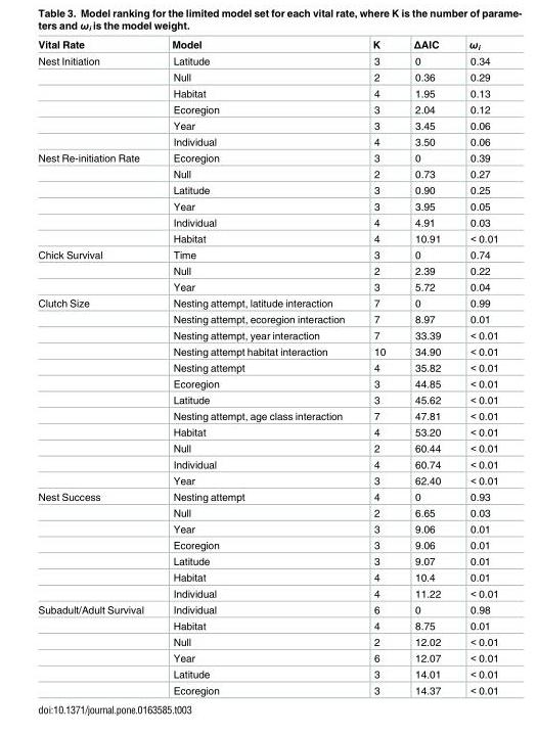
<table><thead><tr><td>Vital Rate</td><td>Model</td><td>K</td><td>ΔAIC</td><td>ω<sub>i</sub></td></tr></thead><tbody><tr><td rowspan="6">Nest Initiation</td><td>Latitude</td><td>3</td><td>0</td><td>0.34</td></tr><tr><td>Null</td><td>2</td><td>0.36</td><td>0.29</td></tr><tr><td>Habitat</td><td>4</td><td>1.95</td><td>0.13</td></tr><tr><td>Ecoregion</td><td>3</td><td>2.04</td><td>0.12</td></tr><tr><td>Year</td><td>3</td><td>3.45</td><td>0.06</td></tr><tr><td>Individual</td><td>4</td><td>3.50</td><td>0.06</td></tr><tr><td rowspan="6">Nest Re-initiation Rate</td><td>Ecoregion</td><td>3</td><td>0</td><td>0.39</td></tr><tr><td>Null</td><td>2</td><td>0.73</td><td>0.27</td></tr><tr><td>Latitude</td><td>3</td><td>0.90</td><td>0.25</td></tr><tr><td>Year</td><td>3</td><td>3.95</td><td>0.05</td></tr><tr><td>Individual</td><td>4</td><td>4.91</td><td>0.03</td></tr><tr><td>Habitat</td><td>4</td><td>10.91</td><td>&lt; 0.01</td></tr><tr><td rowspan="3">Chick Survival</td><td>Time</td><td>3</td><td>0</td><td>0.74</td></tr><tr><td>Null</td><td>2</td><td>2.39</td><td>0.22</td></tr><tr><td>Year</td><td>3</td><td>5.72</td><td>0.04</td></tr><tr><td rowspan="12">Clutch Size</td><td>Nesting attempt, latitude interaction</td><td>7</td><td>0</td><td>0.99</td></tr><tr><td>Nesting attempt, ecoregion interaction</td><td>7</td><td>8.97</td><td>0.01</td></tr><tr><td>Nesting attempt, year interaction</td><td>7</td><td>33.39</td><td>&lt; 0.01</td></tr><tr><td>Nesting attempt habitat interaction</td><td>10</td><td>34.90</td><td>&lt; 0.01</td></tr><tr><td>Nesting attempt</td><td>4</td><td>35.82</td><td>&lt; 0.01</td></tr><tr><td>Ecoregion</td><td>3</td><td>44.85</td><td>&lt; 0.01</td></tr><tr><td>Latitude</td><td>3</td><td>45.62</td><td>&lt; 0.01</td></tr><tr><td>Nesting attempt, age class interaction</td><td>7</td><td>47.81</td><td>&lt; 0.01</td></tr><tr><td>Habitat</td><td>4</td><td>53.20</td><td>&lt; 0.01</td></tr><tr><td>Null</td><td>2</td><td>60.44</td><td>&lt; 0.01</td></tr><tr><td>Individual</td><td>4</td><td>60.74</td><td>&lt; 0.01</td></tr><tr><td>Year</td><td>3</td><td>62.40</td><td>&lt; 0.01</td></tr><tr><td rowspan="7">Nest Success</td><td>Nesting attempt</td><td>4</td><td>0</td><td>0.93</td></tr><tr><td>Null</td><td>2</td><td>6.65</td><td>0.03</td></tr><tr><td>Year</td><td>3</td><td>9.06</td><td>0.01</td></tr><tr><td>Ecoregion</td><td>3</td><td>9.06</td><td>0.01</td></tr><tr><td>Latitude</td><td>3</td><td>9.07</td><td>0.01</td></tr><tr><td>Habitat</td><td>4</td><td>10.4</td><td>0.01</td></tr><tr><td>Individual</td><td>4</td><td>11.22</td><td>&lt; 0.01</td></tr><tr><td rowspan="6">Subadult/Adult Survival</td><td>Individual</td><td>6</td><td>0</td><td>0.98</td></tr><tr><td>Habitat</td><td>4</td><td>8.75</td><td>0.01</td></tr><tr><td>Null</td><td>2</td><td>12.02</td><td>&lt; 0.01</td></tr><tr><td>Year</td><td>6</td><td>12.07</td><td>&lt; 0.01</td></tr><tr><td>Latitude</td><td>3</td><td>14.01</td><td>&lt; 0.01</td></tr><tr><td>Ecoregion</td><td>3</td><td>14.37</td><td>&lt; 0.01</td></tr></tbody></table>